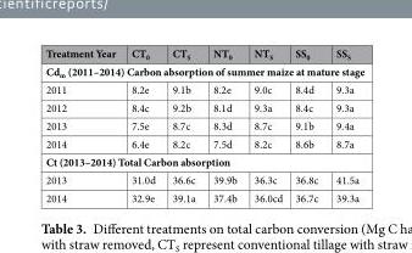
<table><thead><tr><td>Treatment Year</td><td>CT<sub>0</sub></td><td>CT<sub>S</sub></td><td>NT<sub>0</sub></td><td>NT<sub>S</sub></td><td>SS<sub>0</sub></td><td>SS<sub>S</sub></td></tr></thead><tbody><tr><td colspan="7">Cd<sub>m</sub> (2011–2014) Carbon absorption of summer maize at mature stage</td></tr><tr><td>2011</td><td>8.2e</td><td>9.1b</td><td>8.2e</td><td>9.0c</td><td>8.4d</td><td>9.3a</td></tr><tr><td>2012</td><td>8.4c</td><td>9.2b</td><td>8.1d</td><td>9.3a</td><td>8.4c</td><td>9.3a</td></tr><tr><td>2013</td><td>7.5e</td><td>8.7c</td><td>8.3d</td><td>8.7c</td><td>9.1b</td><td>9.4a</td></tr><tr><td>2014</td><td>6.4e</td><td>8.2c</td><td>7.5d</td><td>8.2c</td><td>8.6b</td><td>8.7a</td></tr><tr><td colspan="7">Ct (2013–2014) Total Carbon absorption</td></tr><tr><td>2013</td><td>31.0d</td><td>36.6c</td><td>39.9b</td><td>36.3c</td><td>36.8c</td><td>41.5a</td></tr><tr><td>2014</td><td>32.9e</td><td>39.1a</td><td>37.4b</td><td>36.0cd</td><td>36.7c</td><td>39.3a</td></tr></tbody></table>